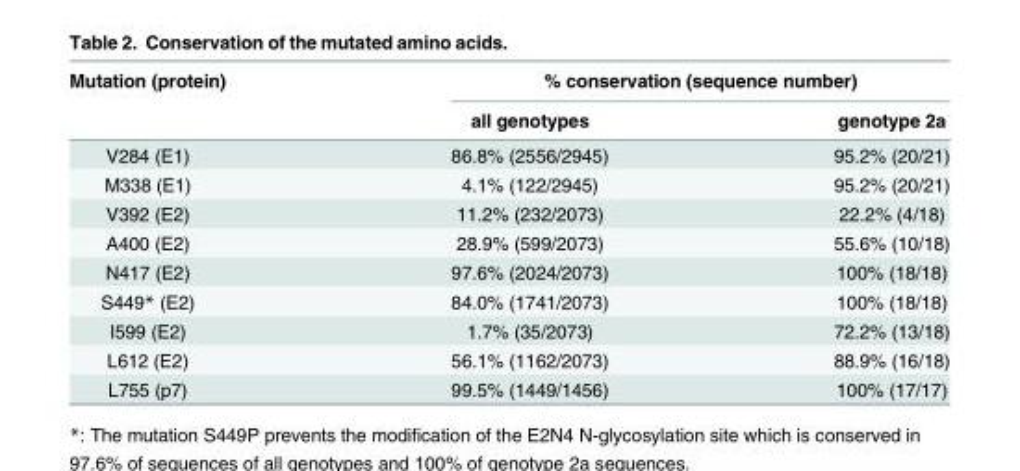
<table><thead><tr><td rowspan="2">Mutation (protein)</td><td colspan="2">% conservation (sequence number)</td></tr><tr><td>all genotypes</td><td>genotype 2a</td></tr></thead><tbody><tr><td>V284 (E1)</td><td>86.8% (2556/2945)</td><td>95.2% (20/21)</td></tr><tr><td>M338 (E1)</td><td>4.1% (122/2945)</td><td>95.2% (20/21)</td></tr><tr><td>V392 (E2)</td><td>11.2% (232/2073)</td><td>22.2% (4/18)</td></tr><tr><td>A400 (E2)</td><td>28.9% (599/2073)</td><td>55.6% (10/18)</td></tr><tr><td>N417 (E2)</td><td>97.6% (2024/2073)</td><td>100% (18/18)</td></tr><tr><td>S449* (E2)</td><td>84.0% (1741/2073)</td><td>100% (18/18)</td></tr><tr><td>I599 (E2)</td><td>1.7% (35/2073)</td><td>72.2% (13/18)</td></tr><tr><td>L612 (E2)</td><td>56.1% (1162/2073)</td><td>88.9% (16/18)</td></tr><tr><td>L755 (p7)</td><td>99.5% (1449/1456)</td><td>100% (17/17)</td></tr></tbody></table>